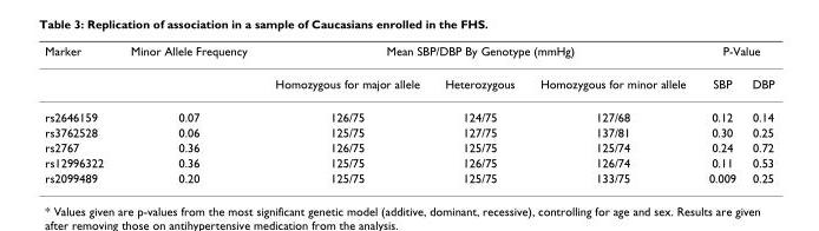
<table><thead><tr><td rowspan="2">Marker</td><td rowspan="2">Minor Allele Frequency</td><td colspan="3">Mean SBP/DBP By Genotype (mmHg)</td><td colspan="2">P-Value</td></tr><tr><td>Homozygous for major allele</td><td>Heterozygous</td><td>Homozygous for minor allele</td><td>SBP</td><td>DBP</td></tr></thead><tbody><tr><td>rs2646159</td><td>0.07</td><td>126/75</td><td>124/75</td><td>127/68</td><td>0.12</td><td>0.14</td></tr><tr><td>rs3762528</td><td>0.06</td><td>125/75</td><td>127/75</td><td>137/81</td><td>0.30</td><td>0.25</td></tr><tr><td>rs2767</td><td>0.36</td><td>126/75</td><td>125/75</td><td>125/74</td><td>0.24</td><td>0.72</td></tr><tr><td>rs12996322</td><td>0.36</td><td>125/75</td><td>126/75</td><td>126/74</td><td>0.11</td><td>0.53</td></tr><tr><td>rs2099489</td><td>0.20</td><td>125/75</td><td>125/75</td><td>133/75</td><td>0.009</td><td>0.25</td></tr></tbody></table>